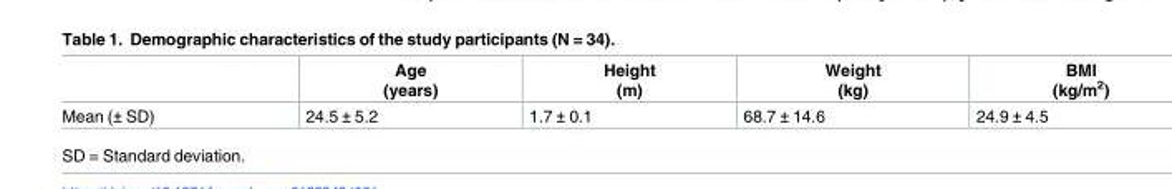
<table><thead><tr><td></td><td>Age (years)</td><td>Height (m)</td><td>Weight (kg)</td><td>BMI (kg/m<sup>2</sup>)</td></tr></thead><tbody><tr><td>Mean (± SD)</td><td>24.5 ± 5.2</td><td>1.7 ± 0.1</td><td>68.7 ± 14.6</td><td>24.9 ± 4.5</td></tr></tbody></table>